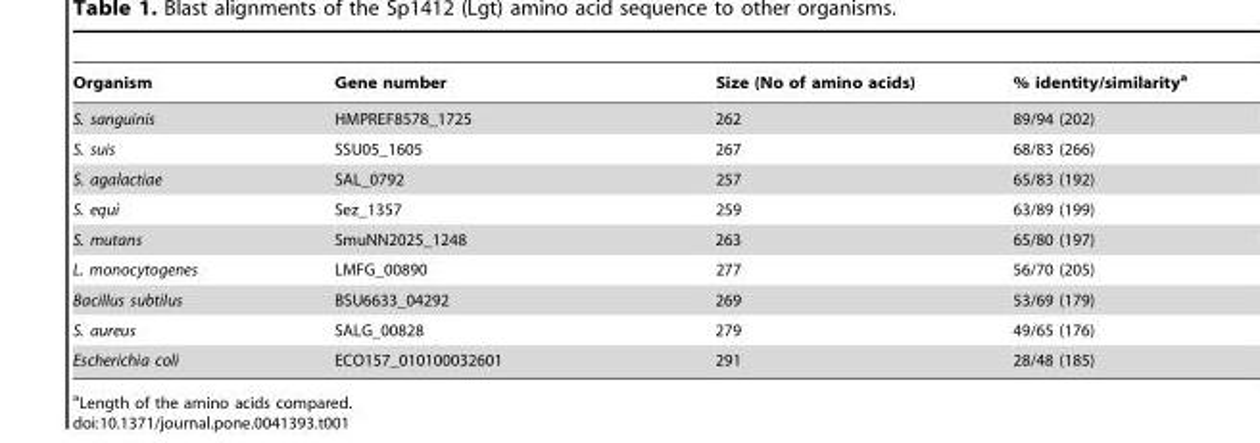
<table><thead><tr><td>Organism</td><td>Gene number</td><td>Size (No of amino acids)</td><td>% identity/similarity<sup>a</sup></td></tr></thead><tbody><tr><td>S. sanguinis</td><td>HMPREF8578_1725</td><td>262</td><td>89/94 (202)</td></tr><tr><td>S. suis</td><td>SSU05_1605</td><td>267</td><td>68/83 (266)</td></tr><tr><td>S. agalactiae</td><td>SAL_0792</td><td>257</td><td>65/83 (192)</td></tr><tr><td>S. equi</td><td>Sez_1357</td><td>259</td><td>63/89 (199)</td></tr><tr><td>S. mutans</td><td>SmuNN2025_1248</td><td>263</td><td>65/80 (197)</td></tr><tr><td>L. monocytogenes</td><td>LMFG_00890</td><td>277</td><td>56/70 (205)</td></tr><tr><td>Bacillus subtilus</td><td>BSU6633_04292</td><td>269</td><td>53/69 (179)</td></tr><tr><td>S. aureus</td><td>SALG_00828</td><td>279</td><td>49/65 (176)</td></tr><tr><td>Escherichia coli</td><td>ECO157_010100032601</td><td>291</td><td>28/48 (185)</td></tr></tbody></table>